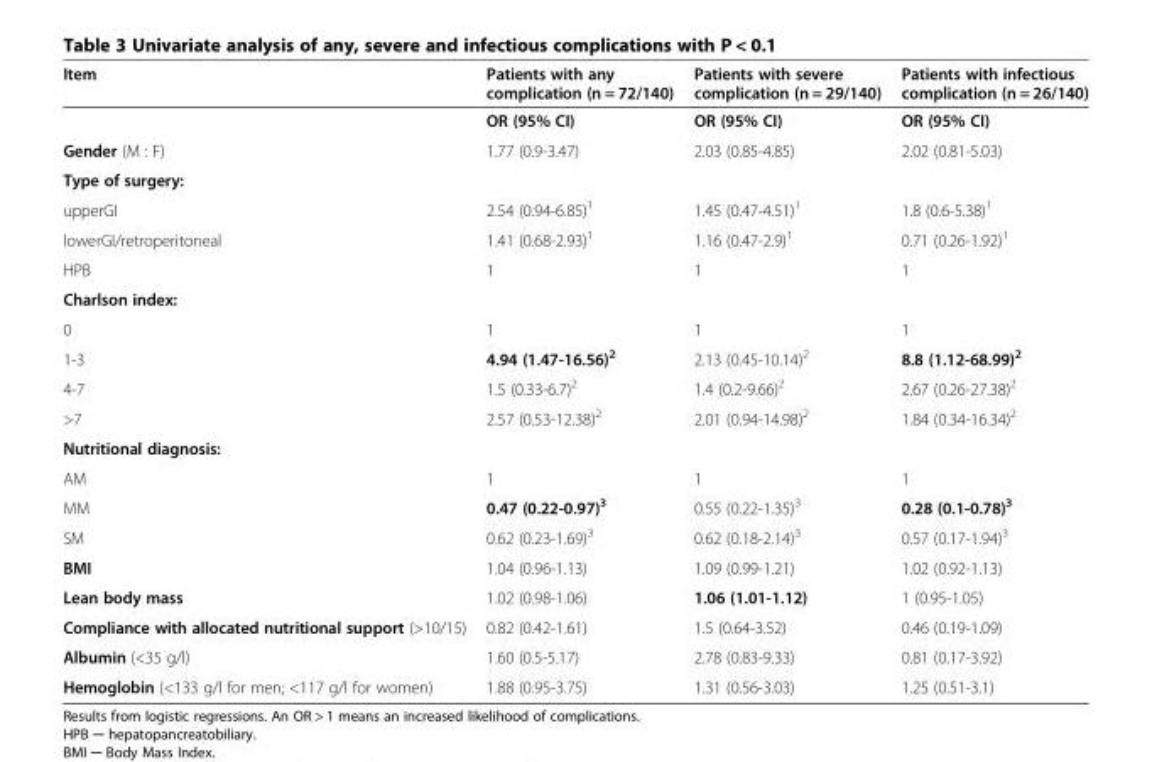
<table><thead><tr><td>Item</td><td>Patients with any complication (n = 72/140)</td><td>Patients with severe complication (n = 29/140)</td><td>Patients with infectious complication (n = 26/140)</td></tr></thead><tbody><tr><td></td><td>OR (95% CI)</td><td>OR (95% CI)</td><td>OR (95% CI)</td></tr><tr><td>Gender (M : F)</td><td>1.77 (0.9-3.47)</td><td>2.03 (0.85-4.85)</td><td>2.02 (0.81-5.03)</td></tr><tr><td colspan="4">Type of surgery:</td></tr><tr><td>upperGI</td><td>2.54 (0.94-6.85)<sup>1</sup></td><td>1.45 (0.47-4.51)<sup>1</sup></td><td>1.8 (0.6-5.38)<sup>1</sup></td></tr><tr><td>lowerGI/retroperitoneal</td><td>1.41 (0.68-2.93)<sup>1</sup></td><td>1.16 (0.47-2.9)<sup>1</sup></td><td>0.71 (0.26-1.92)<sup>1</sup></td></tr><tr><td>HPB</td><td>1</td><td>1</td><td>1</td></tr><tr><td colspan="4">Charlson index:</td></tr><tr><td>0</td><td>1</td><td>1</td><td>1</td></tr><tr><td>1-3</td><td>4.94 (1.47-16.56)<sup>2</sup></td><td>2.13 (0.45-10.14)<sup>2</sup></td><td>8.8 (1.12-68.99)<sup>2</sup></td></tr><tr><td>4-7</td><td>1.5 (0.33-6.7)<sup>2</sup></td><td>1.4 (0.2-9.66)<sup>2</sup></td><td>2.67 (0.26-27.38)<sup>2</sup></td></tr><tr><td>&gt;7</td><td>2.57 (0.53-12.38)<sup>2</sup></td><td>2.01 (0.94-14.98)<sup>2</sup></td><td>1.84 (0.34-16.34)<sup>2</sup></td></tr><tr><td colspan="4">Nutritional diagnosis:</td></tr><tr><td>AM</td><td>1</td><td>1</td><td>1</td></tr><tr><td>MM</td><td>0.47 (0.22-0.97)<sup>3</sup></td><td>0.55 (0.22-1.35)<sup>3</sup></td><td>0.28 (0.1-0.78)<sup>3</sup></td></tr><tr><td>SM</td><td>0.62 (0.23-1.69)<sup>3</sup></td><td>0.62 (0.18-2.14)<sup>3</sup></td><td>0.57 (0.17-1.94)<sup>3</sup></td></tr><tr><td>BMI</td><td>1.04 (0.96-1.13)</td><td>1.09 (0.99-1.21)</td><td>1.02 (0.92-1.13)</td></tr><tr><td>Lean body mass</td><td>1.02 (0.98-1.06)</td><td>1.06 (1.01-1.12)</td><td>1 (0.95-1.05)</td></tr><tr><td>Compliance with allocated nutritional support (&gt;10/15)</td><td>0.82 (0.42-1.61)</td><td>1.5 (0.64-3.52)</td><td>0.46 (0.19-1.09)</td></tr><tr><td>Albumin (&lt;35 g/l)</td><td>1.60 (0.5-5.17)</td><td>2.78 (0.83-9.33)</td><td>0.81 (0.17-3.92)</td></tr><tr><td>Hemoglobin (&lt;133 g/l for men; &lt;117 g/l for women)</td><td>1.88 (0.95-3.75)</td><td>1.31 (0.56-3.03)</td><td>1.25 (0.51-3.1)</td></tr></tbody></table>